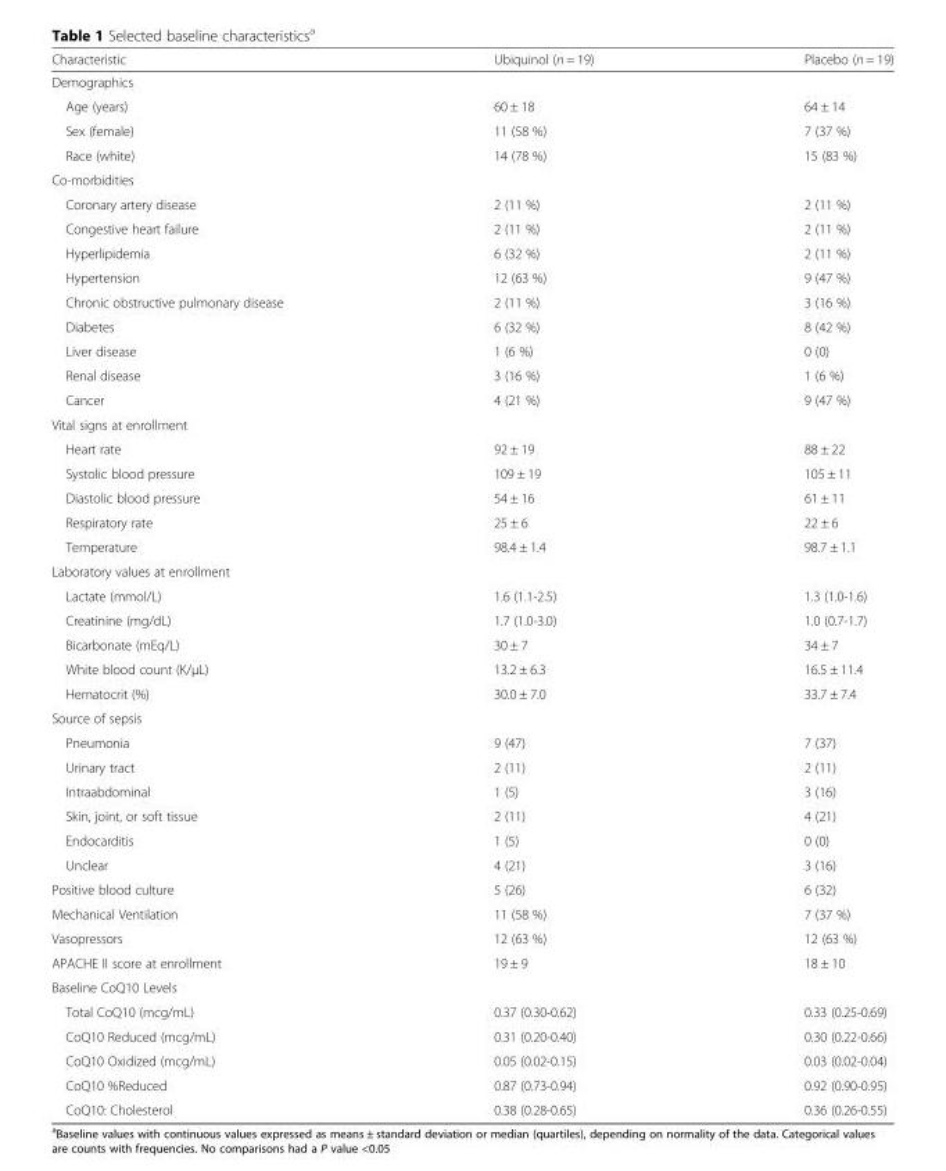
<table><thead><tr><td>Characteristic</td><td>Ubiquinol (n = 19)</td><td>Placebo (n = 19)</td></tr></thead><tbody><tr><td colspan="3">Demographics</td></tr><tr><td>Age (years)</td><td>60 ± 18</td><td>64 ± 14</td></tr><tr><td>Sex (female)</td><td>11 (58 %)</td><td>7 (37 %)</td></tr><tr><td>Race (white)</td><td>14 (78 %)</td><td>15 (83 %)</td></tr><tr><td colspan="3">Co-morbidities</td></tr><tr><td>Coronary artery disease</td><td>2 (11 %)</td><td>2 (11 %)</td></tr><tr><td>Congestive heart failure</td><td>2 (11 %)</td><td>2 (11 %)</td></tr><tr><td>Hyperlipidemia</td><td>6 (32 %)</td><td>2 (11 %)</td></tr><tr><td>Hypertension</td><td>12 (63 %)</td><td>9 (47 %)</td></tr><tr><td>Chronic obstructive pulmonary disease</td><td>2 (11 %)</td><td>3 (16 %)</td></tr><tr><td>Diabetes</td><td>6 (32 %)</td><td>8 (42 %)</td></tr><tr><td>Liver disease</td><td>1 (6 %)</td><td>0 (0)</td></tr><tr><td>Renal disease</td><td>3 (16 %)</td><td>1 (6 %)</td></tr><tr><td>Cancer</td><td>4 (21 %)</td><td>9 (47 %)</td></tr><tr><td colspan="3">Vital signs at enrollment</td></tr><tr><td>Heart rate</td><td>92 ± 19</td><td>88 ± 22</td></tr><tr><td>Systolic blood pressure</td><td>109 ± 19</td><td>105 ± 11</td></tr><tr><td>Diastolic blood pressure</td><td>54 ± 16</td><td>61 ± 11</td></tr><tr><td>Respiratory rate</td><td>25 ± 6</td><td>22 ± 6</td></tr><tr><td>Temperature</td><td>98.4 ± 1.4</td><td>98.7 ± 1.1</td></tr><tr><td colspan="3">Laboratory values at enrollment</td></tr><tr><td>Lactate (mmol/L)</td><td>1.6 (1.1-2.5)</td><td>1.3 (1.0-1.6)</td></tr><tr><td>Creatinine (mg/dL)</td><td>1.7 (1.0-3.0)</td><td>1.0 (0.7-1.7)</td></tr><tr><td>Bicarbonate (mEq/L)</td><td>30 ± 7</td><td>34 ± 7</td></tr><tr><td>White blood count (K/μL)</td><td>13.2 ± 6.3</td><td>16.5 ± 11.4</td></tr><tr><td>Hematocrit (%)</td><td>30.0 ± 7.0</td><td>33.7 ± 7.4</td></tr><tr><td colspan="3">Source of sepsis</td></tr><tr><td>Pneumonia</td><td>9 (47)</td><td>7 (37)</td></tr><tr><td>Urinary tract</td><td>2 (11)</td><td>2 (11)</td></tr><tr><td>Intraabdominal</td><td>1 (5)</td><td>3 (16)</td></tr><tr><td>Skin, joint, or soft tissue</td><td>2 (11)</td><td>4 (21)</td></tr><tr><td>Endocarditis</td><td>1 (5)</td><td>0 (0)</td></tr><tr><td>Unclear</td><td>4 (21)</td><td>3 (16)</td></tr><tr><td>Positive blood culture</td><td>5 (26)</td><td>6 (32)</td></tr><tr><td>Mechanical Ventilation</td><td>11 (58 %)</td><td>7 (37 %)</td></tr><tr><td>Vasopressors</td><td>12 (63 %)</td><td>12 (63 %)</td></tr><tr><td>APACHE II score at enrollment</td><td>19 ± 9</td><td>18 ± 10</td></tr><tr><td colspan="3">Baseline CoQ10 Levels</td></tr><tr><td>Total CoQ10 (mcg/mL)</td><td>0.37 (0.30-0.62)</td><td>0.33 (0.25-0.69)</td></tr><tr><td>CoQ10 Reduced (mcg/mL)</td><td>0.31 (0.20-0.40)</td><td>0.30 (0.22-0.66)</td></tr><tr><td>CoQ10 Oxidized (mcg/mL)</td><td>0.05 (0.02-0.15)</td><td>0.03 (0.02-0.04)</td></tr><tr><td>CoQ10 %Reduced</td><td>0.87 (0.73-0.94)</td><td>0.92 (0.90-0.95)</td></tr><tr><td>CoQ10: Cholesterol</td><td>0.38 (0.28-0.65)</td><td>0.36 (0.26-0.55)</td></tr></tbody></table>